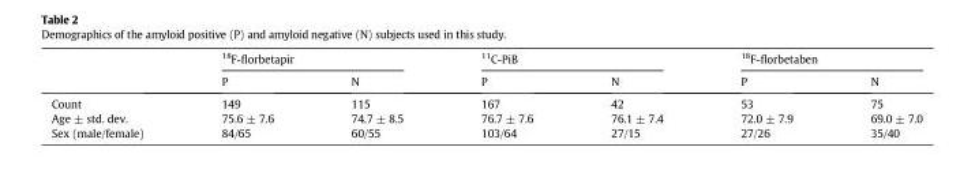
<table><thead><tr><td rowspan="2"></td><td colspan="2"><sup>18</sup>F-florbetapir</td><td colspan="2"><sup>11</sup>C-PiB</td><td colspan="2"><sup>18</sup>F-florbetaben</td></tr><tr><td>P</td><td>N</td><td>P</td><td>N</td><td>P</td><td>N</td></tr></thead><tbody><tr><td>Count</td><td>149</td><td>115</td><td>167</td><td>42</td><td>53</td><td>75</td></tr><tr><td>Age ± std. dev.</td><td>75.6 ± 7.6</td><td>74.7 ± 8.5</td><td>76.7 ± 7.6</td><td>76.1 ± 7.4</td><td>72.0 ± 7.9</td><td>69.0 ± 7.0</td></tr><tr><td>Sex (male/female)</td><td>84/65</td><td>60/55</td><td>103/64</td><td>27/15</td><td>27/26</td><td>35/40</td></tr></tbody></table>